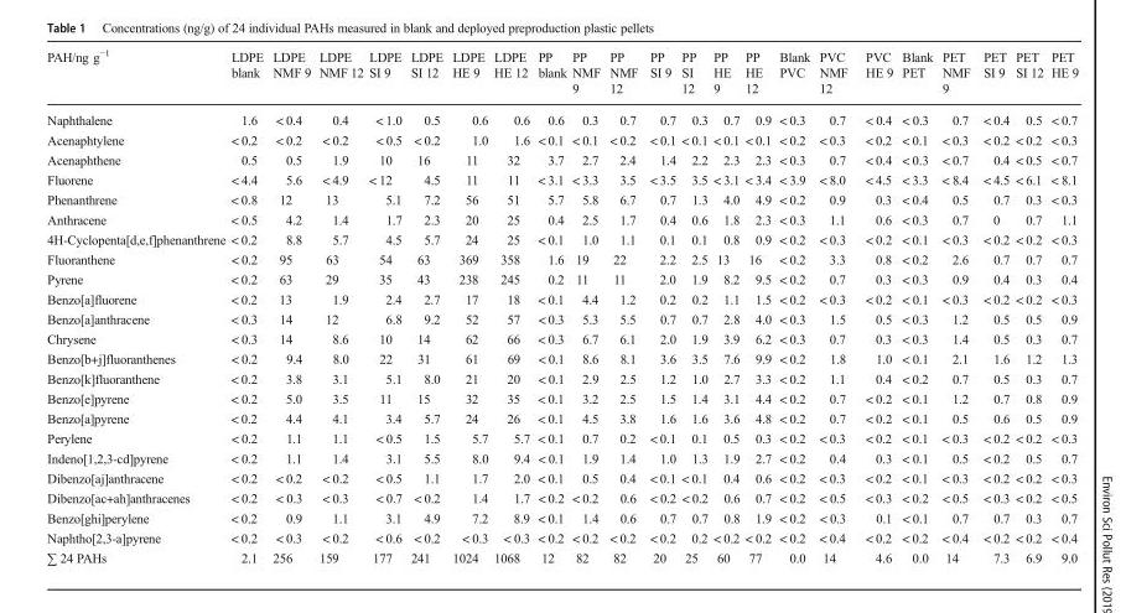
<table><thead><tr><td>PAH/ng g<sup>−1</sup></td><td>LDPE blank</td><td>LDPE NMF 9</td><td>LDPE NMF 12</td><td>LDPE SI 9</td><td>LDPE SI 12</td><td>LDPE HE 9</td><td>LDPE HE 12</td><td>PP blank</td><td>PP NMF 9</td><td>PP NMF 12</td><td>PP SI 9</td><td>PP SI 12</td><td>PP HE 9</td><td>PP HE 12</td><td>Blank PVC</td><td>PVC NMF 12</td><td>PVC HE 9</td><td>Blank PET</td><td>PET NMF 9</td><td>PET SI 9</td><td>PET SI 12</td><td>PET HE 9</td></tr></thead><tbody><tr><td>Naphthalene</td><td>1.6</td><td>&lt; 0.4</td><td>0.4</td><td>&lt; 1.0</td><td>0.5</td><td>0.6</td><td>0.6</td><td>0.6</td><td>0.3</td><td>0.7</td><td>0.7</td><td>0.3</td><td>0.7</td><td>0.9</td><td>&lt; 0.3</td><td>0.7</td><td>&lt; 0.4</td><td>&lt; 0.3</td><td>0.7</td><td>&lt; 0.4</td><td>0.5</td><td>&lt; 0.7</td></tr><tr><td>Acenaphtylene</td><td>&lt; 0.2</td><td>&lt; 0.2</td><td>&lt; 0.2</td><td>&lt; 0.5</td><td>&lt; 0.2</td><td>1.0</td><td>1.6</td><td>&lt; 0.1</td><td>&lt; 0.1</td><td>&lt; 0.2</td><td>&lt; 0.1</td><td>&lt; 0.1</td><td>&lt; 0.1</td><td>&lt; 0.1</td><td>&lt; 0.2</td><td>&lt; 0.3</td><td>&lt; 0.2</td><td>&lt; 0.1</td><td>&lt; 0.3</td><td>&lt; 0.2</td><td>&lt; 0.2</td><td>&lt; 0.3</td></tr><tr><td>Acenaphthene</td><td>0.5</td><td>0.5</td><td>1.9</td><td>10</td><td>16</td><td>11</td><td>32</td><td>3.7</td><td>2.7</td><td>2.4</td><td>1.4</td><td>2.2</td><td>2.3</td><td>2.3</td><td>&lt; 0.3</td><td>0.7</td><td>&lt; 0.4</td><td>&lt; 0.3</td><td>&lt; 0.7</td><td>0.4</td><td>&lt; 0.5</td><td>&lt; 0.7</td></tr><tr><td>Fluorene</td><td>&lt; 4.4</td><td>5.6</td><td>&lt; 4.9</td><td>&lt; 12</td><td>4.5</td><td>11</td><td>11</td><td>&lt; 3.1</td><td>&lt; 3.3</td><td>3.5</td><td>&lt; 3.5</td><td>3.5</td><td>&lt; 3.1</td><td>&lt; 3.4</td><td>&lt; 3.9</td><td>&lt; 8.0</td><td>&lt; 4.5</td><td>&lt; 3.3</td><td>&lt; 8.4</td><td>&lt; 4.5</td><td>&lt; 6.1</td><td>&lt; 8.1</td></tr><tr><td>Phenanthrene</td><td>&lt; 0.8</td><td>12</td><td>13</td><td>5.1</td><td>7.2</td><td>56</td><td>51</td><td>5.7</td><td>5.8</td><td>6.7</td><td>0.7</td><td>1.3</td><td>4.0</td><td>4.9</td><td>&lt; 0.2</td><td>0.9</td><td>0.3</td><td>&lt; 0.4</td><td>0.5</td><td>0.7</td><td>0.3</td><td>&lt; 0.3</td></tr><tr><td>Anthracene</td><td>&lt; 0.5</td><td>4.2</td><td>1.4</td><td>1.7</td><td>2.3</td><td>20</td><td>25</td><td>0.4</td><td>2.5</td><td>1.7</td><td>0.4</td><td>0.6</td><td>1.8</td><td>2.3</td><td>&lt; 0.3</td><td>1.1</td><td>0.6</td><td>&lt; 0.3</td><td>0.7</td><td>0</td><td>0.7</td><td>1.1</td></tr><tr><td>4H-Cyclopenta[d,e,f]phenanthrene</td><td>&lt; 0.2</td><td>8.8</td><td>5.7</td><td>4.5</td><td>5.7</td><td>24</td><td>25</td><td>&lt; 0.1</td><td>1.0</td><td>1.1</td><td>0.1</td><td>0.1</td><td>0.8</td><td>0.9</td><td>&lt; 0.2</td><td>&lt; 0.3</td><td>&lt; 0.2</td><td>&lt; 0.1</td><td>&lt; 0.3</td><td>&lt; 0.2</td><td>&lt; 0.2</td><td>&lt; 0.3</td></tr><tr><td>Fluoranthene</td><td>&lt; 0.2</td><td>95</td><td>63</td><td>54</td><td>63</td><td>369</td><td>358</td><td>1.6</td><td>19</td><td>22</td><td>2.2</td><td>2.5</td><td>13</td><td>16</td><td>&lt; 0.2</td><td>3.3</td><td>0.8</td><td>&lt; 0.2</td><td>2.6</td><td>0.7</td><td>0.7</td><td>0.7</td></tr><tr><td>Pyrene</td><td>&lt; 0.2</td><td>63</td><td>29</td><td>35</td><td>43</td><td>238</td><td>245</td><td>0.2</td><td>11</td><td>11</td><td>2.0</td><td>1.9</td><td>8.2</td><td>9.5</td><td>&lt; 0.2</td><td>0.7</td><td>0.3</td><td>&lt; 0.3</td><td>0.9</td><td>0.4</td><td>0.3</td><td>0.4</td></tr><tr><td>Benzo[a]fluorene</td><td>&lt; 0.2</td><td>13</td><td>1.9</td><td>2.4</td><td>2.7</td><td>17</td><td>18</td><td>&lt; 0.1</td><td>4.4</td><td>1.2</td><td>0.2</td><td>0.2</td><td>1.1</td><td>1.5</td><td>&lt; 0.2</td><td>&lt; 0.3</td><td>&lt; 0.2</td><td>&lt; 0.1</td><td>&lt; 0.3</td><td>&lt; 0.2</td><td>&lt; 0.2</td><td>&lt; 0.3</td></tr><tr><td>Benzo[a]anthracene</td><td>&lt; 0.3</td><td>14</td><td>12</td><td>6.8</td><td>9.2</td><td>52</td><td>57</td><td>&lt; 0.3</td><td>5.3</td><td>5.5</td><td>0.7</td><td>0.7</td><td>2.8</td><td>4.0</td><td>&lt; 0.3</td><td>1.5</td><td>0.5</td><td>&lt; 0.3</td><td>1.2</td><td>0.5</td><td>0.5</td><td>0.9</td></tr><tr><td>Chrysene</td><td>&lt; 0.3</td><td>14</td><td>8.6</td><td>10</td><td>14</td><td>62</td><td>66</td><td>&lt; 0.3</td><td>6.7</td><td>6.1</td><td>2.0</td><td>1.9</td><td>3.9</td><td>6.2</td><td>&lt; 0.3</td><td>0.7</td><td>0.3</td><td>&lt; 0.3</td><td>1.4</td><td>0.5</td><td>0.3</td><td>0.7</td></tr><tr><td>Benzo[b+j]fluoranthenes</td><td>&lt; 0.2</td><td>9.4</td><td>8.0</td><td>22</td><td>31</td><td>61</td><td>69</td><td>&lt; 0.1</td><td>8.6</td><td>8.1</td><td>3.6</td><td>3.5</td><td>7.6</td><td>9.9</td><td>&lt; 0.2</td><td>1.8</td><td>1.0</td><td>&lt; 0.1</td><td>2.1</td><td>1.6</td><td>1.2</td><td>1.3</td></tr><tr><td>Benzo[k]fluoranthene</td><td>&lt; 0.2</td><td>3.8</td><td>3.1</td><td>5.1</td><td>8.0</td><td>21</td><td>20</td><td>&lt; 0.1</td><td>2.9</td><td>2.5</td><td>1.2</td><td>1.0</td><td>2.7</td><td>3.3</td><td>&lt; 0.2</td><td>1.1</td><td>0.4</td><td>&lt; 0.2</td><td>0.7</td><td>0.5</td><td>0.3</td><td>0.7</td></tr><tr><td>Benzo[e]pyrene</td><td>&lt; 0.2</td><td>5.0</td><td>3.5</td><td>11</td><td>15</td><td>32</td><td>35</td><td>&lt; 0.1</td><td>3.2</td><td>2.5</td><td>1.5</td><td>1.4</td><td>3.1</td><td>4.4</td><td>&lt; 0.2</td><td>0.7</td><td>&lt; 0.2</td><td>&lt; 0.1</td><td>1.2</td><td>0.7</td><td>0.8</td><td>0.9</td></tr><tr><td>Benzo[a]pyrene</td><td>&lt; 0.2</td><td>4.4</td><td>4.1</td><td>3.4</td><td>5.7</td><td>24</td><td>26</td><td>&lt; 0.1</td><td>4.5</td><td>3.8</td><td>1.6</td><td>1.6</td><td>3.6</td><td>4.8</td><td>&lt; 0.2</td><td>0.7</td><td>&lt; 0.2</td><td>&lt; 0.1</td><td>0.5</td><td>0.6</td><td>0.5</td><td>0.9</td></tr><tr><td>Perylene</td><td>&lt; 0.2</td><td>1.1</td><td>1.1</td><td>&lt; 0.5</td><td>1.5</td><td>5.7</td><td>5.7</td><td>&lt; 0.1</td><td>0.7</td><td>0.2</td><td>&lt; 0.1</td><td>0.1</td><td>0.5</td><td>0.3</td><td>&lt; 0.2</td><td>&lt; 0.3</td><td>&lt; 0.2</td><td>&lt; 0.1</td><td>&lt; 0.3</td><td>&lt; 0.2</td><td>&lt; 0.2</td><td>&lt; 0.3</td></tr><tr><td>Indeno[1,2,3-cd]pyrene</td><td>&lt; 0.2</td><td>1.1</td><td>1.4</td><td>3.1</td><td>5.5</td><td>8.0</td><td>9.4</td><td>&lt; 0.1</td><td>1.9</td><td>1.4</td><td>1.0</td><td>1.3</td><td>1.9</td><td>2.7</td><td>&lt; 0.2</td><td>0.4</td><td>0.3</td><td>&lt; 0.1</td><td>0.5</td><td>&lt; 0.2</td><td>0.5</td><td>0.7</td></tr><tr><td>Dibenzo[aj]anthracene</td><td>&lt; 0.2</td><td>&lt; 0.2</td><td>&lt; 0.2</td><td>&lt; 0.5</td><td>1.1</td><td>1.7</td><td>2.0</td><td>&lt; 0.1</td><td>0.5</td><td>0.4</td><td>&lt; 0.1</td><td>&lt; 0.1</td><td>0.4</td><td>0.6</td><td>&lt; 0.2</td><td>&lt; 0.3</td><td>&lt; 0.2</td><td>&lt; 0.1</td><td>&lt; 0.3</td><td>&lt; 0.2</td><td>&lt; 0.2</td><td>&lt; 0.3</td></tr><tr><td>Dibenzo[ac+ah]anthracenes</td><td>&lt; 0.2</td><td>&lt; 0.3</td><td>&lt; 0.3</td><td>&lt; 0.7</td><td>&lt; 0.2</td><td>1.4</td><td>1.7</td><td>&lt; 0.2</td><td>&lt; 0.2</td><td>0.6</td><td>&lt; 0.2</td><td>&lt; 0.2</td><td>0.6</td><td>0.7</td><td>&lt; 0.2</td><td>&lt; 0.5</td><td>&lt; 0.3</td><td>&lt; 0.2</td><td>&lt; 0.5</td><td>&lt; 0.3</td><td>&lt; 0.2</td><td>&lt; 0.5</td></tr><tr><td>Benzo[ghi]perylene</td><td>&lt; 0.2</td><td>0.9</td><td>1.1</td><td>3.1</td><td>4.9</td><td>7.2</td><td>8.9</td><td>&lt; 0.1</td><td>1.4</td><td>0.6</td><td>0.7</td><td>0.7</td><td>0.8</td><td>1.9</td><td>&lt; 0.2</td><td>&lt; 0.3</td><td>0.1</td><td>&lt; 0.1</td><td>0.7</td><td>0.7</td><td>0.3</td><td>0.7</td></tr><tr><td>Naphtho[2,3-a]pyrene</td><td>&lt; 0.2</td><td>&lt; 0.3</td><td>&lt; 0.2</td><td>&lt; 0.6</td><td>&lt; 0.2</td><td>&lt; 0.3</td><td>&lt; 0.3</td><td>&lt; 0.2</td><td>&lt; 0.2</td><td>&lt; 0.2</td><td>&lt; 0.2</td><td>0.2</td><td>&lt; 0.2</td><td>&lt; 0.2</td><td>&lt; 0.2</td><td>&lt; 0.4</td><td>&lt; 0.2</td><td>&lt; 0.2</td><td>&lt; 0.4</td><td>&lt; 0.2</td><td>&lt; 0.2</td><td>&lt; 0.4</td></tr><tr><td>∑ 24 PAHs</td><td>2.1</td><td>256</td><td>159</td><td>177</td><td>241</td><td>1024</td><td>1068</td><td>12</td><td>82</td><td>82</td><td>20</td><td>25</td><td>60</td><td>77</td><td>0.0</td><td>14</td><td>4.6</td><td>0.0</td><td>14</td><td>7.3</td><td>6.9</td><td>9.0</td></tr></tbody></table>